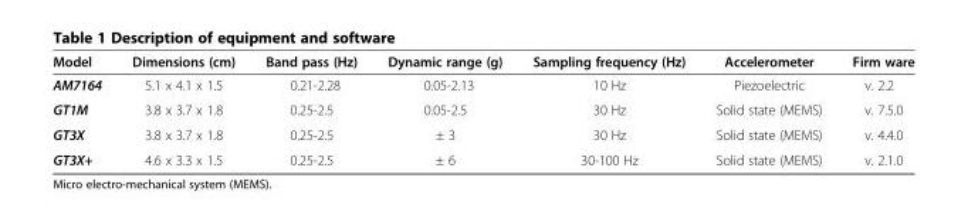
<table><thead><tr><td>Model</td><td>Dimensions (cm)</td><td>Band pass (Hz)</td><td>Dynamic range (g)</td><td>Sampling frequency (Hz)</td><td>Accelerometer</td><td>Firm ware</td></tr></thead><tbody><tr><td>AM7164</td><td>5.1 x 4.1 x 1.5</td><td>0.21-2.28</td><td>0.05-2.13</td><td>10 Hz</td><td>Piezoelectric</td><td>v. 2.2</td></tr><tr><td>GT1M</td><td>3.8 x 3.7 x 1.8</td><td>0.25-2.5</td><td>0.05-2.5</td><td>30 Hz</td><td>Solid state (MEMS)</td><td>v. 7.5.0</td></tr><tr><td>GT3X</td><td>3.8 x 3.7 x 1.8</td><td>0.25-2.5</td><td>± 3</td><td>30 Hz</td><td>Solid state (MEMS)</td><td>v. 4.4.0</td></tr><tr><td>GT3X+</td><td>4.6 x 3.3 x 1.5</td><td>0.25-2.5</td><td>± 6</td><td>30-100 Hz</td><td>Solid state (MEMS)</td><td>v. 2.1.0</td></tr></tbody></table>